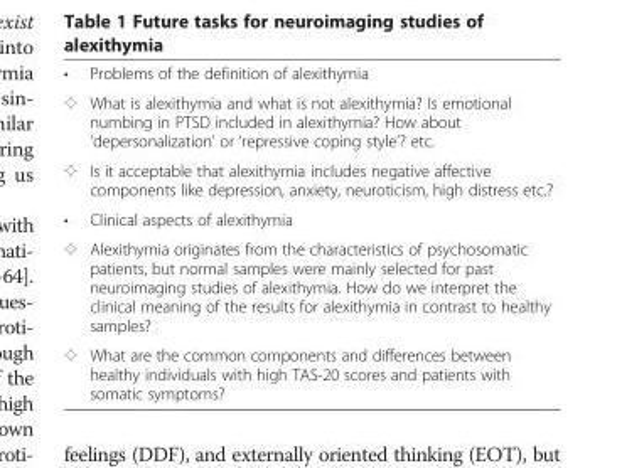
<table><tbody><tr><td>•</td><td>Problems of the definition of alexithymia</td></tr><tr><td>✧</td><td>What is alexithymia and what is not alexithymia? Is emotional numbing in PTSD included in alexithymia? How about ‘depersonalization’ or ‘repressive coping style’? etc.</td></tr><tr><td>✧</td><td>Is it acceptable that alexithymia includes negative affective components like depression, anxiety, neuroticism, high distress etc.?</td></tr><tr><td>•</td><td>Clinical aspects of alexithymia</td></tr><tr><td>✧</td><td>Alexithymia originates from the characteristics of psychosomatic patients, but normal samples were mainly selected for past neuroimaging studies of alexithymia. How do we interpret the clinical meaning of the results for alexithymia in contrast to healthy samples?</td></tr><tr><td>✧</td><td>What are the common components and differences between healthy individuals with high TAS-20 scores and patients with somatic symptoms?</td></tr></tbody></table>